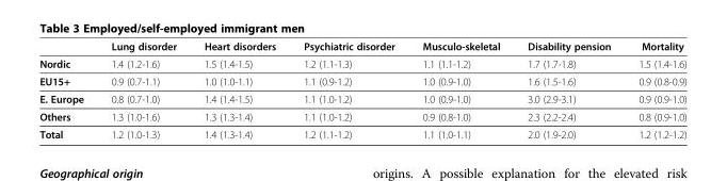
<table><thead><tr><td></td><td>Lung disorder</td><td>Heart disorders</td><td>Psychiatric disorder</td><td>Musculo-skeletal</td><td>Disability pension</td><td>Mortality</td></tr></thead><tbody><tr><td>Nordic</td><td>1.4 (1.2-1.6)</td><td>1.5 (1.4-1.5)</td><td>1.2 (1.1-1.3)</td><td>1.1 (1.1-1.2)</td><td>1.7 (1.7-1.8)</td><td>1.5 (1.4-1.6)</td></tr><tr><td>EU15+</td><td>0.9 (0.7-1.1)</td><td>1.0 (1.0-1.1)</td><td>1.1 (0.9-1.2)</td><td>1.0 (0.9-1.0)</td><td>1.6 (1.5-1.6)</td><td>0.9 (0.8-0.9)</td></tr><tr><td>E. Europe</td><td>0.8 (0.7-1.0)</td><td>1.4 (1.4-1.5)</td><td>1.1 (1.0-1.2)</td><td>1.0 (0.9-1.0)</td><td>3.0 (2.9-3.1)</td><td>0.9 (0.9-1.0)</td></tr><tr><td>Others</td><td>1.3 (1.0-1.6)</td><td>1.3 (1.3-1.4)</td><td>1.1 (1.0-1.2)</td><td>0.9 (0.8-1.0)</td><td>2.3 (2.2-2.4)</td><td>0.8 (0.9-1.0)</td></tr><tr><td>Total</td><td>1.2 (1.0-1.3)</td><td>1.4 (1.3-1.4)</td><td>1.2 (1.1-1.2)</td><td>1.1 (1.0-1.1)</td><td>2.0 (1.9-2.0)</td><td>1.2 (1.2-1.2)</td></tr></tbody></table>